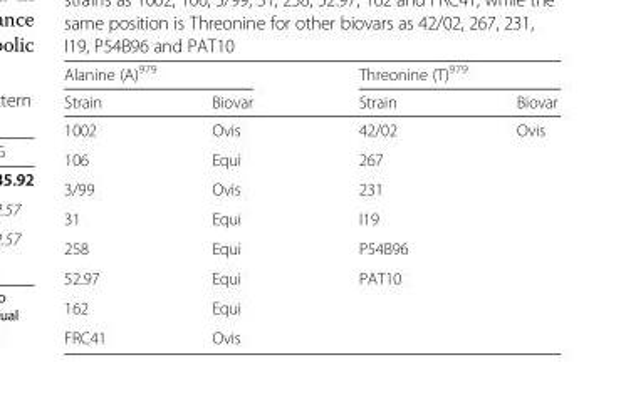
<table><thead><tr><td colspan="2">Alanine (A)<sup>979</sup></td><td colspan="2">Threonine (T)<sup>979</sup></td></tr><tr><td>Strain</td><td>Biovar</td><td>Strain</td><td>Biovar</td></tr></thead><tbody><tr><td>1002</td><td>Ovis</td><td>42/02</td><td rowspan="6">Ovis</td></tr><tr><td>106</td><td>Equi</td><td>267</td></tr><tr><td>3/99</td><td>Ovis</td><td>231</td></tr><tr><td>31</td><td>Equi</td><td>I19</td></tr><tr><td>258</td><td>Equi</td><td>P54B96</td></tr><tr><td>52.97</td><td>Equi</td><td>PAT10</td></tr><tr><td>162</td><td>Equi</td><td></td><td></td></tr><tr><td>FRC41</td><td>Ovis</td><td></td><td></td></tr></tbody></table>